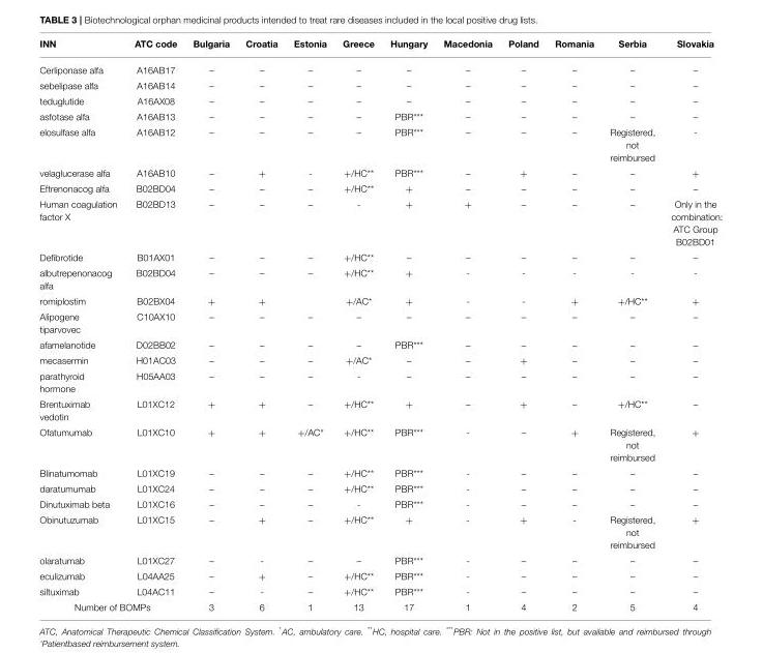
<table><thead><tr><td>INN</td><td>ATC code</td><td>Bulgaria</td><td>Croatia</td><td>Estonia</td><td>Greece</td><td>Hungary</td><td>Macedonia</td><td>Poland</td><td>Romania</td><td>Serbia</td><td>Slovakia</td></tr></thead><tbody><tr><td>Cerliponase alfa</td><td>A16AB17</td><td>–</td><td>–</td><td>–</td><td>–</td><td>–</td><td>–</td><td>–</td><td>–</td><td>–</td><td>–</td></tr><tr><td>sebelipase alfa</td><td>A16AB14</td><td>–</td><td>–</td><td>–</td><td>–</td><td>–</td><td>–</td><td>–</td><td>–</td><td>–</td><td>–</td></tr><tr><td>teduglutide</td><td>A16AX08</td><td>–</td><td>–</td><td>–</td><td>–</td><td>–</td><td>–</td><td>–</td><td>–</td><td>–</td><td>–</td></tr><tr><td>asfotase alfa</td><td>A16AB13</td><td>–</td><td>–</td><td>–</td><td>–</td><td>PBR***</td><td>–</td><td>–</td><td>–</td><td>–</td><td>–</td></tr><tr><td>elosulfase alfa</td><td>A16AB12</td><td>–</td><td>–</td><td>–</td><td>–</td><td>PBR***</td><td>–</td><td>–</td><td>–</td><td>Registered, not reimbursed</td><td>-</td></tr><tr><td>velaglucerase alfa</td><td>A16AB10</td><td>–</td><td>+</td><td>-</td><td>+/HC**</td><td>PBR***</td><td>–</td><td>+</td><td>–</td><td>–</td><td>+</td></tr><tr><td>Eftrenonacog alfa</td><td>B02BD04</td><td>–</td><td>–</td><td>–</td><td>+/HC**</td><td>+</td><td>–</td><td>–</td><td>–</td><td>–</td><td>–</td></tr><tr><td>Human coagulation factor X</td><td>B02BD13</td><td>–</td><td>–</td><td>–</td><td>-</td><td>+</td><td>+</td><td>–</td><td>–</td><td>–</td><td>Only in the combination: ATC Group B02BD01</td></tr><tr><td>Defibrotide</td><td>B01AX01</td><td>–</td><td>–</td><td>–</td><td>+/HC**</td><td>–</td><td>–</td><td>–</td><td>–</td><td>–</td><td>–</td></tr><tr><td>albutrepenonacog alfa</td><td>B02BD04</td><td>–</td><td>–</td><td>–</td><td>+/HC**</td><td>+</td><td>-</td><td>-</td><td>-</td><td>-</td><td>-</td></tr><tr><td>romiplostim</td><td>B02BX04</td><td>+</td><td>+</td><td></td><td>+/AC*</td><td>+</td><td>-</td><td>-</td><td>+</td><td>+/HC**</td><td>+</td></tr><tr><td>Alipogene tiparvovec</td><td>C10AX10</td><td>–</td><td>–</td><td>–</td><td>–</td><td>–</td><td>–</td><td>–</td><td>–</td><td>–</td><td>–</td></tr><tr><td>afamelanotide</td><td>D02BB02</td><td>–</td><td>–</td><td>–</td><td>–</td><td>PBR***</td><td>–</td><td>–</td><td>–</td><td>–</td><td>–</td></tr><tr><td>mecasermin</td><td>H01AC03</td><td>–</td><td>–</td><td>–</td><td>+/AC*</td><td>–</td><td>–</td><td>+</td><td>–</td><td>–</td><td>–</td></tr><tr><td>parathyroid hormone</td><td>H05AA03</td><td>–</td><td>–</td><td>–</td><td>-</td><td>–</td><td>–</td><td>–</td><td>–</td><td>–</td><td>–</td></tr><tr><td>Brentuximab vedotin</td><td>L01XC12</td><td>+</td><td>+</td><td>–</td><td>+/HC**</td><td>+</td><td>–</td><td>+</td><td>–</td><td>+/HC**</td><td>–</td></tr><tr><td>Ofatumumab</td><td>L01XC10</td><td>+</td><td>+</td><td>+/AC*</td><td>+/HC**</td><td>PBR***</td><td>-</td><td>–</td><td>+</td><td>Registered, not reimbursed</td><td>+</td></tr><tr><td>Blinatumomab</td><td>L01XC19</td><td>–</td><td>–</td><td>–</td><td>+/HC**</td><td>PBR***</td><td>-</td><td>–</td><td>–</td><td>–</td><td>–</td></tr><tr><td>daratumumab</td><td>L01XC24</td><td>–</td><td>–</td><td>–</td><td>+/HC**</td><td>PBR***</td><td>-</td><td>–</td><td>–</td><td>–</td><td>–</td></tr><tr><td>Dinutuximab beta</td><td>L01XC16</td><td>–</td><td>–</td><td>–</td><td>-</td><td>PBR***</td><td>-</td><td>–</td><td>–</td><td>–</td><td>–</td></tr><tr><td>Obinutuzumab</td><td>L01XC15</td><td>–</td><td>+</td><td>–</td><td>+/HC**</td><td>+</td><td>-</td><td>+</td><td>-</td><td>Registered, not reimbursed</td><td>+</td></tr><tr><td>olaratumab</td><td>L01XC27</td><td>–</td><td>-</td><td>–</td><td>–</td><td>PBR***</td><td>-</td><td>–</td><td>–</td><td>–</td><td>–</td></tr><tr><td>eculizumab</td><td>L04AA25</td><td>–</td><td>+</td><td>–</td><td>+/HC**</td><td>PBR***</td><td>-</td><td>–</td><td>–</td><td>–</td><td>–</td></tr><tr><td>siltuximab</td><td>L04AC11</td><td>–</td><td>-</td><td>–</td><td>+/HC**</td><td>PBR***</td><td>-</td><td>–</td><td>–</td><td>–</td><td>–</td></tr><tr><td colspan="2">Number of BOMPs</td><td>3</td><td>6</td><td>1</td><td>13</td><td>17</td><td>1</td><td>4</td><td>2</td><td>5</td><td>4</td></tr></tbody></table>